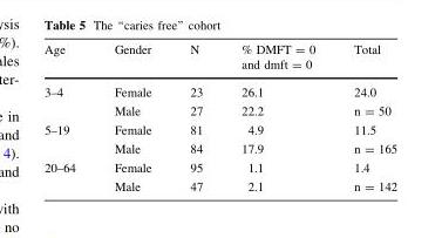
<table><thead><tr><td>Age</td><td>Gender</td><td>N</td><td>% DMFT = 0 and dmft = 0</td><td>Total</td></tr></thead><tbody><tr><td rowspan="2">3–4</td><td>Female</td><td>23</td><td>26.1</td><td>24.0</td></tr><tr><td>Male</td><td>27</td><td>22.2</td><td>n = 50</td></tr><tr><td rowspan="2">5–19</td><td>Female</td><td>81</td><td>4.9</td><td>11.5</td></tr><tr><td>Male</td><td>84</td><td>17.9</td><td>n = 165</td></tr><tr><td rowspan="2">20–64</td><td>Female</td><td>95</td><td>1.1</td><td>1.4</td></tr><tr><td>Male</td><td>47</td><td>2.1</td><td>n = 142</td></tr></tbody></table>